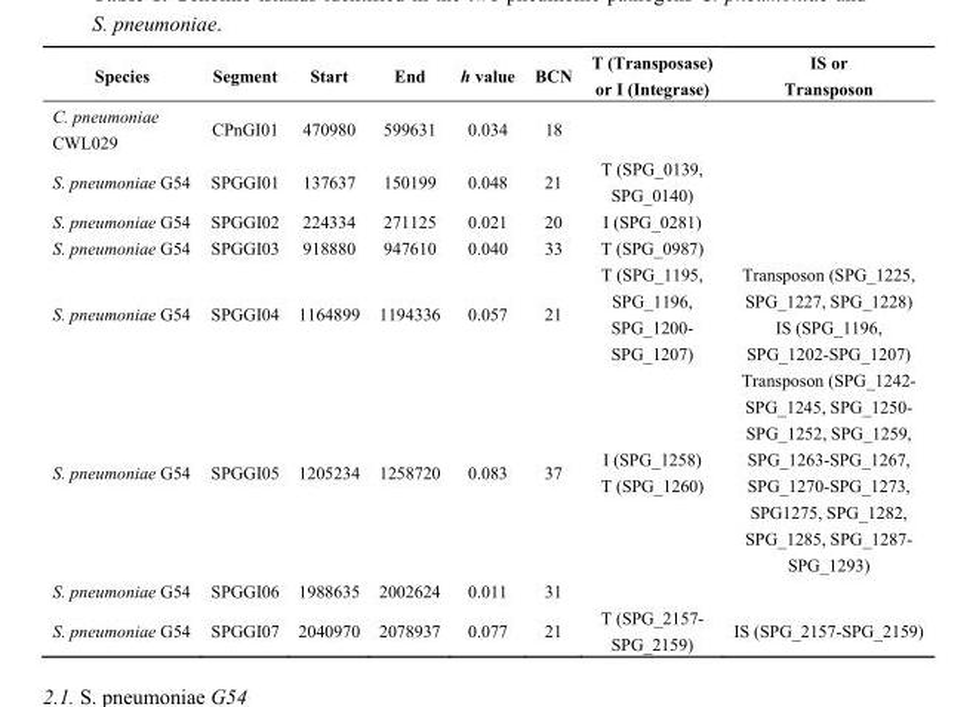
<table><thead><tr><td>Species</td><td>Segment</td><td>Start</td><td>End</td><td>h value</td><td>BCN</td><td>T (Transposase) or I (Integrase)</td><td>IS or Transposon</td></tr></thead><tbody><tr><td>C. pneumoniae CWL029</td><td>CPnGI01</td><td>470980</td><td>599631</td><td>0.034</td><td>18</td><td></td><td></td></tr><tr><td>S. pneumoniae G54</td><td>SPGGI01</td><td>137637</td><td>150199</td><td>0.048</td><td>21</td><td>T (SPG_0139, SPG_0140)</td><td></td></tr><tr><td>S. pneumoniae G54</td><td>SPGGI02</td><td>224334</td><td>271125</td><td>0.021</td><td>20</td><td>I (SPG_0281)</td><td></td></tr><tr><td>S. pneumoniae G54</td><td>SPGGI03</td><td>918880</td><td>947610</td><td>0.040</td><td>33</td><td>T (SPG_0987)</td><td></td></tr><tr><td>S. pneumoniae G54</td><td>SPGGI04</td><td>1164899</td><td>1194336</td><td>0.057</td><td>21</td><td>T (SPG_1195, SPG_1196, SPG_1200- SPG_1207)</td><td>Transposon (SPG_1225, SPG_1227, SPG_1228) IS (SPG_1196, SPG_1202-SPG_1207)</td></tr><tr><td>S. pneumoniae G54</td><td>SPGGI05</td><td>1205234</td><td>1258720</td><td>0.083</td><td>37</td><td>I (SPG_1258) T (SPG_1260)</td><td>Transposon (SPG_1242- SPG_1245, SPG_1250- SPG_1252, SPG_1259, SPG_1263-SPG_1267, SPG_1270-SPG_1273, SPG1275, SPG_1282, SPG_1285, SPG_1287- SPG_1293)</td></tr><tr><td>S. pneumoniae G54</td><td>SPGGI06</td><td>1988635</td><td>2002624</td><td>0.011</td><td>31</td><td></td><td></td></tr><tr><td>S. pneumoniae G54</td><td>SPGGI07</td><td>2040970</td><td>2078937</td><td>0.077</td><td>21</td><td>T (SPG_2157- SPG_2159)</td><td>IS (SPG_2157-SPG_2159)</td></tr></tbody></table>